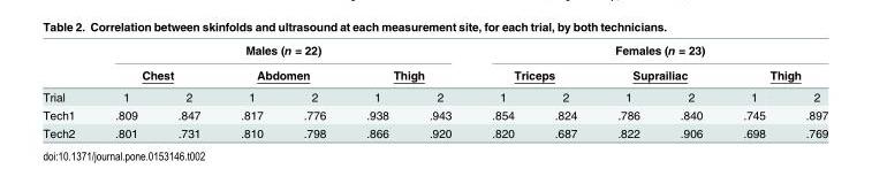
<table><thead><tr><td rowspan="3">Trial</td><td colspan="6">Males (n = 22)</td><td colspan="6">Females (n = 23)</td></tr><tr><td colspan="2">Chest</td><td colspan="2">Abdomen</td><td colspan="2">Thigh</td><td colspan="2">Triceps</td><td colspan="2">Suprailiac</td><td colspan="2">Thigh</td></tr><tr><td>1</td><td>2</td><td>1</td><td>2</td><td>1</td><td>2</td><td>1</td><td>2</td><td>1</td><td>2</td><td>1</td><td>2</td></tr></thead><tbody><tr><td>Tech1</td><td>.809</td><td>.847</td><td>.817</td><td>.776</td><td>.938</td><td>.943</td><td>.854</td><td>.824</td><td>.786</td><td>.840</td><td>.745</td><td>.897</td></tr><tr><td>Tech2</td><td>.801</td><td>.731</td><td>.810</td><td>.798</td><td>.866</td><td>.920</td><td>.820</td><td>.687</td><td>.822</td><td>.906</td><td>.698</td><td>.769</td></tr></tbody></table>